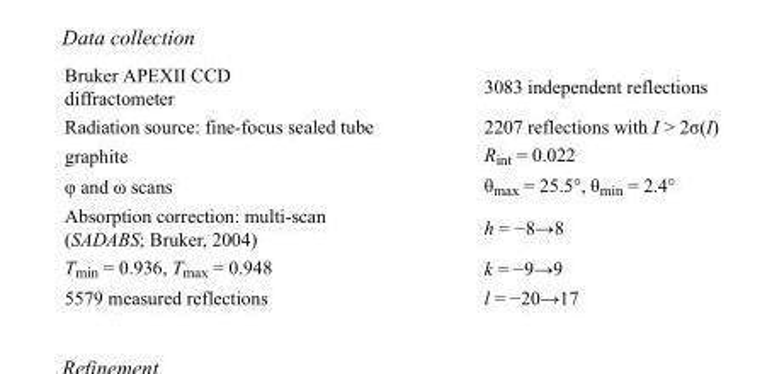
<table><tbody><tr><td>Bruker APEXII CCD diffractometer</td><td>3083 independent reflections</td></tr><tr><td>Radiation source: fine-focus sealed tube</td><td>2207 reflections with I &gt; 2σ(I)</td></tr><tr><td>graphite</td><td>R<sub>int</sub> = 0.022</td></tr><tr><td>φ and ω scans</td><td>θ<sub>max</sub> = 25.5°, θ<sub>min</sub> = 2.4°</td></tr><tr><td>Absorption correction: multi-scan (SADABS; Bruker, 2004)</td><td>h = −8→8</td></tr><tr><td>T<sub>min</sub> = 0.936, T<sub>max</sub> = 0.948</td><td>k = −9→9</td></tr><tr><td>5579 measured reflections</td><td>l = −20→17</td></tr></tbody></table>